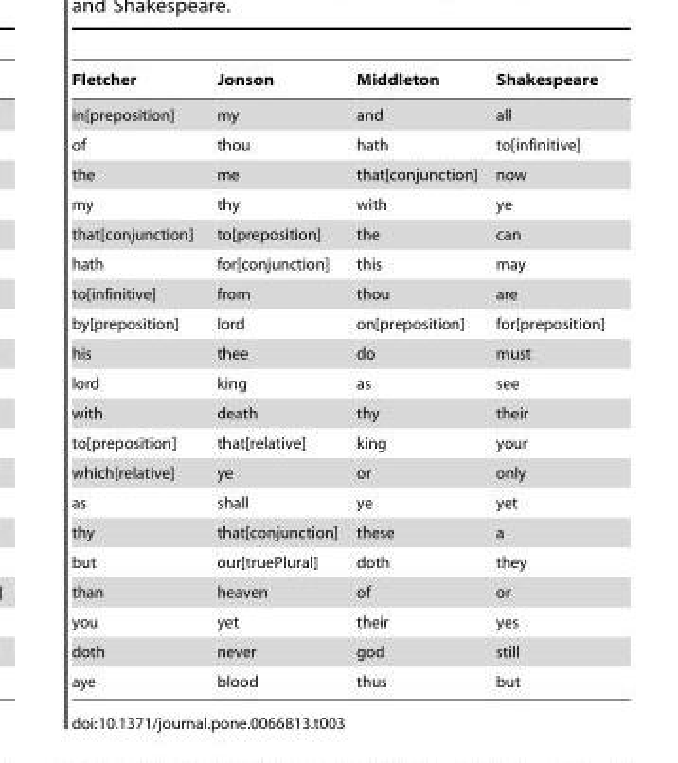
<table><thead><tr><td>Fletcher</td><td>Jonson</td><td>Middleton</td><td>Shakespeare</td></tr></thead><tbody><tr><td>in[preposition]</td><td>my</td><td>and</td><td>all</td></tr><tr><td>of</td><td>thou</td><td>hath</td><td>to[infinitive]</td></tr><tr><td>the</td><td>me</td><td>that[conjunction]</td><td>now</td></tr><tr><td>my</td><td>thy</td><td>with</td><td>ye</td></tr><tr><td>that[conjunction]</td><td>to[preposition]</td><td>the</td><td>can</td></tr><tr><td>hath</td><td>for[conjunction]</td><td>this</td><td>may</td></tr><tr><td>to[infinitive]</td><td>from</td><td>thou</td><td>are</td></tr><tr><td>by[preposition]</td><td>lord</td><td>on[preposition]</td><td>for[preposition]</td></tr><tr><td>his</td><td>thee</td><td>do</td><td>must</td></tr><tr><td>lord</td><td>king</td><td>as</td><td>see</td></tr><tr><td>with</td><td>death</td><td>thy</td><td>their</td></tr><tr><td>to[preposition]</td><td>that[relative]</td><td>king</td><td>your</td></tr><tr><td>which[relative]</td><td>ye</td><td>or</td><td>only</td></tr><tr><td>as</td><td>shall</td><td>ye</td><td>yet</td></tr><tr><td>thy</td><td>that[conjunction]</td><td>these</td><td>a</td></tr><tr><td>but</td><td>our[truePlural]</td><td>doth</td><td>they</td></tr><tr><td>than</td><td>heaven</td><td>of</td><td>or</td></tr><tr><td>you</td><td>yet</td><td>their</td><td>yes</td></tr><tr><td>doth</td><td>never</td><td>god</td><td>still</td></tr><tr><td>aye</td><td>blood</td><td>thus</td><td>but</td></tr></tbody></table>